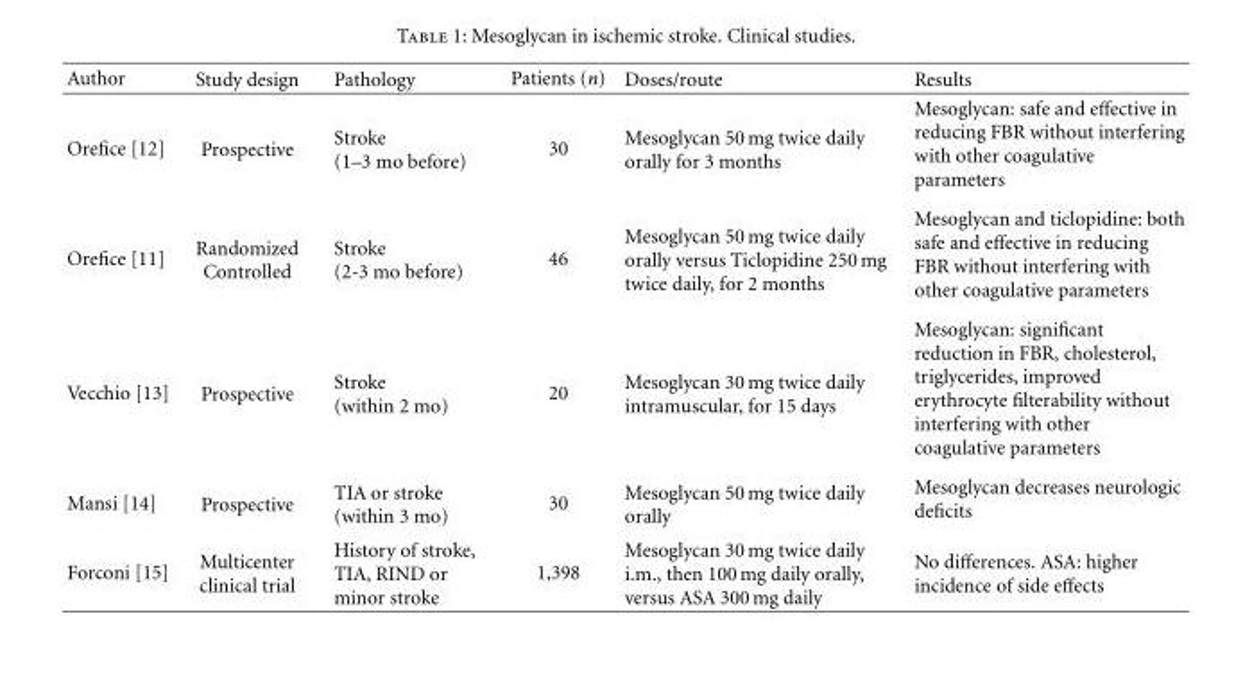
<table><thead><tr><td>Author</td><td>Study design</td><td>Pathology</td><td>Patients (n)</td><td>Doses/route</td><td>Results</td></tr></thead><tbody><tr><td>Orefice [12]</td><td>Prospective</td><td>Stroke (1–3 mo before)</td><td>30</td><td>Mesoglycan 50 mg twice daily orally for 3 months</td><td>Mesoglycan: safe and effective in reducing FBR without interfering with other coagulative parameters</td></tr><tr><td>Orefice [11]</td><td>Randomized Controlled</td><td>Stroke (2-3 mo before)</td><td>46</td><td>Mesoglycan 50 mg twice daily orally versus Ticlopidine 250 mg twice daily, for 2 months</td><td>Mesoglycan and ticlopidine: both safe and effective in reducing FBR without interfering with other coagulative parameters</td></tr><tr><td>Vecchio [13]</td><td>Prospective</td><td>Stroke (within 2 mo)</td><td>20</td><td>Mesoglycan 30 mg twice daily intramuscular, for 15 days</td><td>Mesoglycan: significant reduction in FBR, cholesterol, triglycerides, improved erythrocyte filterability without interfering with other coagulative parameters</td></tr><tr><td>Mansi [14]</td><td>Prospective</td><td>TIA or stroke (within 3 mo)</td><td>30</td><td>Mesoglycan 50 mg twice daily orally</td><td>Mesoglycan decreases neurologic deficits</td></tr><tr><td>Forconi [15]</td><td>Multicenter clinical trial</td><td>History of stroke, TIA, RIND or minor stroke</td><td>1,398</td><td>Mesoglycan 30 mg twice daily i.m., then 100 mg daily orally, versus ASA 300 mg daily</td><td>No differences. ASA: higher incidence of side effects</td></tr></tbody></table>